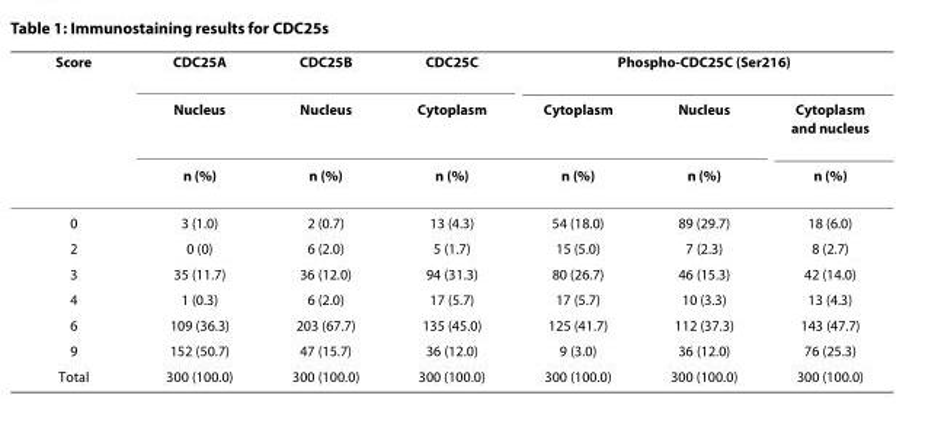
<table><thead><tr><td rowspan="3">Score</td><td rowspan="3">CDC25A Nucleus n (%)</td><td rowspan="3">CDC25B Nucleus n (%)</td><td rowspan="3">CDC25C Cytoplasm n (%)</td><td colspan="3">Phospho-CDC25C (Ser216)</td></tr><tr><td rowspan="2">Cytoplasm n (%)</td><td rowspan="2">Nucleus n (%)</td><td rowspan="2">Cytoplasm and nucleus n (%)</td></tr><tr></tr></thead><tbody><tr><td>0</td><td>3 (1.0)</td><td>2 (0.7)</td><td>13 (4.3)</td><td>54 (18.0)</td><td>89 (29.7)</td><td>18 (6.0)</td></tr><tr><td>2</td><td>0 (0)</td><td>6 (2.0)</td><td>5 (1.7)</td><td>15 (5.0)</td><td>7 (2.3)</td><td>8 (2.7)</td></tr><tr><td>3</td><td>35 (11.7)</td><td>36 (12.0)</td><td>94 (31.3)</td><td>80 (26.7)</td><td>46 (15.3)</td><td>42 (14.0)</td></tr><tr><td>4</td><td>1 (0.3)</td><td>6 (2.0)</td><td>17 (5.7)</td><td>17 (5.7)</td><td>10 (3.3)</td><td>13 (4.3)</td></tr><tr><td>6</td><td>109 (36.3)</td><td>203 (67.7)</td><td>135 (45.0)</td><td>125 (41.7)</td><td>112 (37.3)</td><td>143 (47.7)</td></tr><tr><td>9</td><td>152 (50.7)</td><td>47 (15.7)</td><td>36 (12.0)</td><td>9 (3.0)</td><td>36 (12.0)</td><td>76 (25.3)</td></tr><tr><td>Total</td><td>300 (100.0)</td><td>300 (100.0)</td><td>300 (100.0)</td><td>300 (100.0)</td><td>300 (100.0)</td><td>300 (100.0)</td></tr></tbody></table>